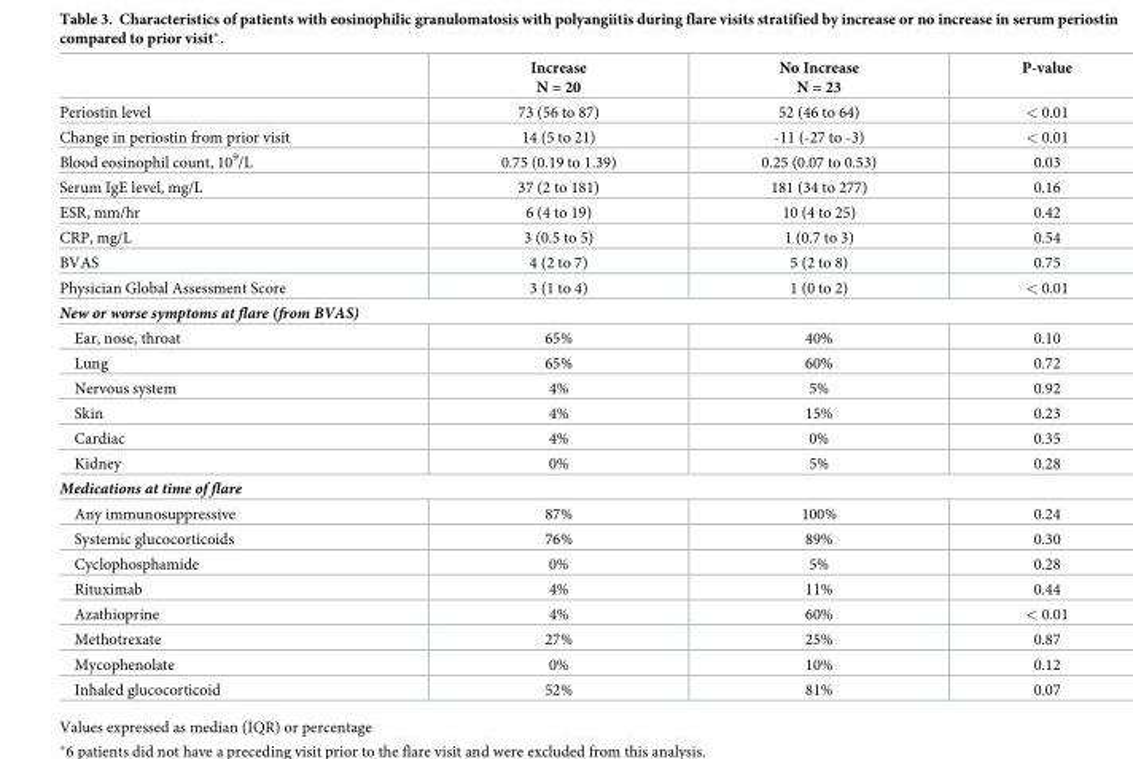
<table><thead><tr><td></td><td>Increase N = 20</td><td>No Increase N = 23</td><td>P-value</td></tr></thead><tbody><tr><td>Periostin level</td><td>73 (56 to 87)</td><td>52 (46 to 64)</td><td>&lt; 0.01</td></tr><tr><td>Change in periostin from prior visit</td><td>14 (5 to 21)</td><td>-11 (-27 to -3)</td><td>&lt; 0.01</td></tr><tr><td>Blood eosinophil count, 10<sup>9</sup>/L</td><td>0.75 (0.19 to 1.39)</td><td>0.25 (0.07 to 0.53)</td><td>0.03</td></tr><tr><td>Serum IgE level, mg/L</td><td>37 (2 to 181)</td><td>181 (34 to 277)</td><td>0.16</td></tr><tr><td>ESR, mm/hr</td><td>6 (4 to 19)</td><td>10 (4 to 25)</td><td>0.42</td></tr><tr><td>CRP, mg/L</td><td>3 (0.5 to 5)</td><td>1 (0.7 to 3)</td><td>0.54</td></tr><tr><td>BVAS</td><td>4 (2 to 7)</td><td>5 (2 to 8)</td><td>0.75</td></tr><tr><td>Physician Global Assessment Score</td><td>3 (1 to 4)</td><td>1 (0 to 2)</td><td>&lt; 0.01</td></tr><tr><td colspan="4">New or worse symptoms at flare (from BVAS)</td></tr><tr><td>Ear, nose, throat</td><td>65%</td><td>40%</td><td>0.10</td></tr><tr><td>Lung</td><td>65%</td><td>60%</td><td>0.72</td></tr><tr><td>Nervous system</td><td>4%</td><td>5%</td><td>0.92</td></tr><tr><td>Skin</td><td>4%</td><td>15%</td><td>0.23</td></tr><tr><td>Cardiac</td><td>4%</td><td>0%</td><td>0.35</td></tr><tr><td>Kidney</td><td>0%</td><td>5%</td><td>0.28</td></tr><tr><td colspan="4">Medications at time of flare</td></tr><tr><td>Any immunosuppressive</td><td>87%</td><td>100%</td><td>0.24</td></tr><tr><td>Systemic glucocorticoids</td><td>76%</td><td>89%</td><td>0.30</td></tr><tr><td>Cyclophosphamide</td><td>0%</td><td>5%</td><td>0.28</td></tr><tr><td>Rituximab</td><td>4%</td><td>11%</td><td>0.44</td></tr><tr><td>Azathioprine</td><td>4%</td><td>60%</td><td>&lt; 0.01</td></tr><tr><td>Methotrexate</td><td>27%</td><td>25%</td><td>0.87</td></tr><tr><td>Mycophenolate</td><td>0%</td><td>10%</td><td>0.12</td></tr><tr><td>Inhaled glucocorticoid</td><td>52%</td><td>81%</td><td>0.07</td></tr></tbody></table>